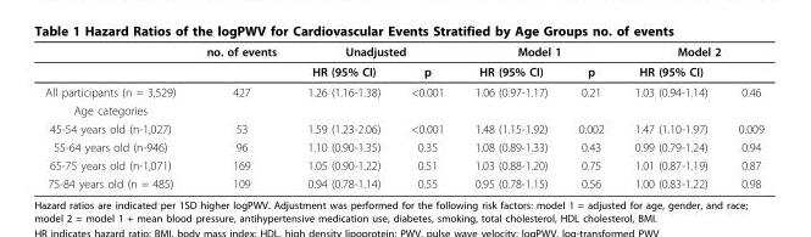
<table><thead><tr><td rowspan="2"></td><td rowspan="2">no. of events</td><td colspan="2">Unadjusted</td><td colspan="2">Model 1</td><td colspan="2">Model 2</td></tr><tr><td>HR (95% CI)</td><td>p</td><td>HR (95% CI)</td><td>p</td><td>HR (95% CI)</td><td></td></tr></thead><tbody><tr><td>All participants (n = 3,529)</td><td>427</td><td>1.26 (1.16-1.38)</td><td>&lt;0.001</td><td>1.06 (0.97-1.17)</td><td>0.21</td><td>1.03 (0.94-1.14)</td><td>0.46</td></tr><tr><td colspan="8">Age categories</td></tr><tr><td>45-54 years old (n-1,027)</td><td>53</td><td>1.59 (1.23-2.06)</td><td>&lt;0.001</td><td>1.48 (1.15-1.92)</td><td>0.002</td><td>1.47 (1.10-1.97)</td><td>0.009</td></tr><tr><td>55-64 years old (n-946)</td><td>96</td><td>1.10 (0.90-1.35)</td><td>0.35</td><td>1.08 (0.89-1.33)</td><td>0.43</td><td>0.99 (0.79-1.24)</td><td>0.94</td></tr><tr><td>65-75 years old (n-1,071)</td><td>169</td><td>1.05 (0.90-1.22)</td><td>0.51</td><td>1.03 (0.88-1.20)</td><td>0.75</td><td>1.01 (0.87-1.19)</td><td>0.87</td></tr><tr><td>75-84 years old (n = 485)</td><td>109</td><td>0.94 (0.78-1.14)</td><td>0.55</td><td>0.95 (0.78-1.15)</td><td>0.56</td><td>1.00 (0.83-1.22)</td><td>0.98</td></tr></tbody></table>